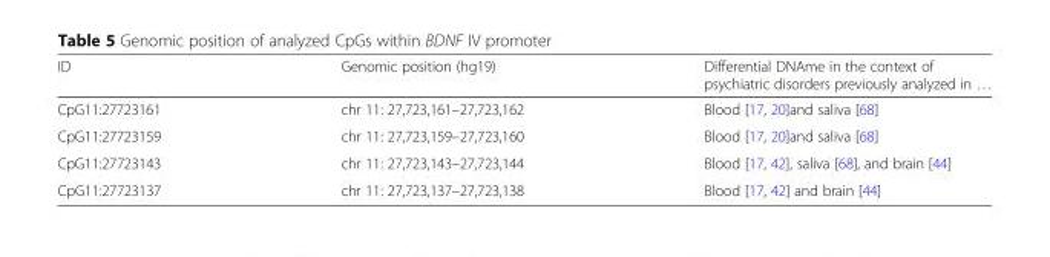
<table><thead><tr><td>ID</td><td>Genomic position (hg19)</td><td>Differential DNAme in the context of psychiatric disorders previously analyzed in …</td></tr></thead><tbody><tr><td>CpG11:27723161</td><td>chr 11: 27,723,161–27,723,162</td><td>Blood [17, 20]and saliva [68]</td></tr><tr><td>CpG11:27723159</td><td>chr 11: 27,723,159–27,723,160</td><td>Blood [17, 20]and saliva [68]</td></tr><tr><td>CpG11:27723143</td><td>chr 11: 27,723,143–27,723,144</td><td>Blood [17, 42], saliva [68], and brain [44]</td></tr><tr><td>CpG11:27723137</td><td>chr 11: 27,723,137–27,723,138</td><td>Blood [17, 42] and brain [44]</td></tr></tbody></table>